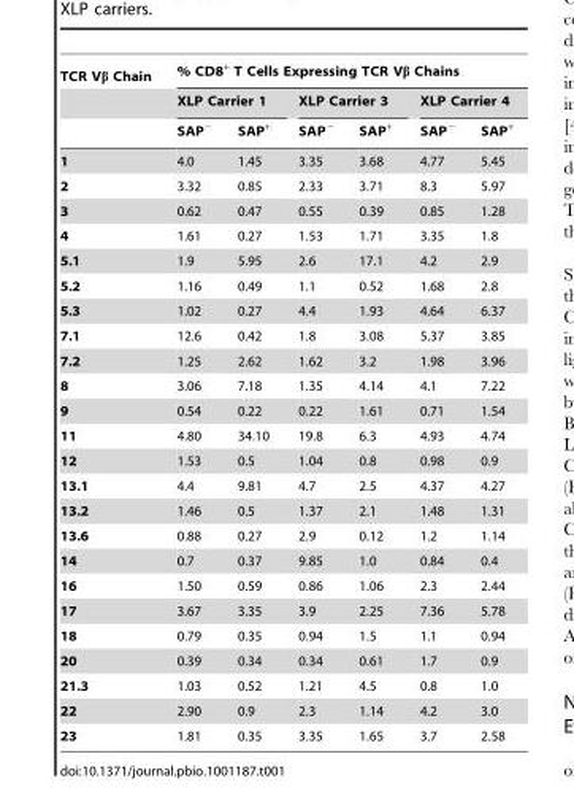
<table><thead><tr><td rowspan="3">TCR Vβ Chain</td><td colspan="6">% CD8<sup>+</sup> T Cells Expressing TCR Vβ Chains</td></tr><tr><td colspan="2">XLP Carrier 1</td><td colspan="2">XLP Carrier 3</td><td colspan="2">XLP Carrier 4</td></tr><tr><td>SAP<sup>−</sup></td><td>SAP<sup>+</sup></td><td>SAP<sup>−</sup></td><td>SAP<sup>+</sup></td><td>SAP<sup>−</sup></td><td>SAP<sup>+</sup></td></tr></thead><tbody><tr><td>1</td><td>4.0</td><td>1.45</td><td>3.35</td><td>3.68</td><td>4.77</td><td>5.45</td></tr><tr><td>2</td><td>3.32</td><td>0.85</td><td>2.33</td><td>3.71</td><td>8.3</td><td>5.97</td></tr><tr><td>3</td><td>0.62</td><td>0.47</td><td>0.55</td><td>0.39</td><td>0.85</td><td>1.28</td></tr><tr><td>4</td><td>1.61</td><td>0.27</td><td>1.53</td><td>1.71</td><td>3.35</td><td>1.8</td></tr><tr><td>5.1</td><td>1.9</td><td>5.95</td><td>2.6</td><td>17.1</td><td>4.2</td><td>2.9</td></tr><tr><td>5.2</td><td>1.16</td><td>0.49</td><td>1.1</td><td>0.52</td><td>1.68</td><td>2.8</td></tr><tr><td>5.3</td><td>1.02</td><td>0.27</td><td>4.4</td><td>1.93</td><td>4.64</td><td>6.37</td></tr><tr><td>7.1</td><td>12.6</td><td>0.42</td><td>1.8</td><td>3.08</td><td>5.37</td><td>3.85</td></tr><tr><td>7.2</td><td>1.25</td><td>2.62</td><td>1.62</td><td>3.2</td><td>1.98</td><td>3.96</td></tr><tr><td>8</td><td>3.06</td><td>7.18</td><td>1.35</td><td>4.14</td><td>4.1</td><td>7.22</td></tr><tr><td>9</td><td>0.54</td><td>0.22</td><td>0.22</td><td>1.61</td><td>0.71</td><td>1.54</td></tr><tr><td>11</td><td>4.80</td><td>34.10</td><td>19.8</td><td>6.3</td><td>4.93</td><td>4.74</td></tr><tr><td>12</td><td>1.53</td><td>0.5</td><td>1.04</td><td>0.8</td><td>0.98</td><td>0.9</td></tr><tr><td>13.1</td><td>4.4</td><td>9.81</td><td>4.7</td><td>2.5</td><td>4.37</td><td>4.27</td></tr><tr><td>13.2</td><td>1.46</td><td>0.5</td><td>1.37</td><td>2.1</td><td>1.48</td><td>1.31</td></tr><tr><td>13.6</td><td>0.88</td><td>0.27</td><td>2.9</td><td>0.12</td><td>1.2</td><td>1.14</td></tr><tr><td>14</td><td>0.7</td><td>0.37</td><td>9.85</td><td>1.0</td><td>0.84</td><td>0.4</td></tr><tr><td>16</td><td>1.50</td><td>0.59</td><td>0.86</td><td>1.06</td><td>2.3</td><td>2.44</td></tr><tr><td>17</td><td>3.67</td><td>3.35</td><td>3.9</td><td>2.25</td><td>7.36</td><td>5.78</td></tr><tr><td>18</td><td>0.79</td><td>0.35</td><td>0.94</td><td>1.5</td><td>1.1</td><td>0.94</td></tr><tr><td>20</td><td>0.39</td><td>0.34</td><td>0.34</td><td>0.61</td><td>1.7</td><td>0.9</td></tr><tr><td>21.3</td><td>1.03</td><td>0.52</td><td>1.21</td><td>4.5</td><td>0.8</td><td>1.0</td></tr><tr><td>22</td><td>2.90</td><td>0.9</td><td>2.3</td><td>1.14</td><td>4.2</td><td>3.0</td></tr><tr><td>23</td><td>1.81</td><td>0.35</td><td>3.35</td><td>1.65</td><td>3.7</td><td>2.58</td></tr></tbody></table>